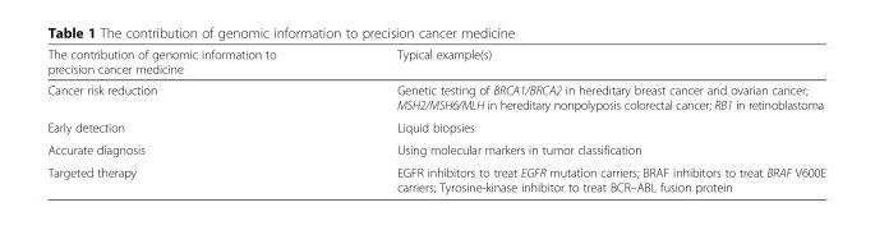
<table><thead><tr><td>The contribution of genomic information to precision cancer medicine</td><td>Typical example(s)</td></tr></thead><tbody><tr><td>Cancer risk reduction</td><td>Genetic testing of BRCA1/BRCA2 in hereditary breast cancer and ovarian cancer; MSH2/MSH6/MLH in hereditary nonpolyposis colorectal cancer; RB1 in retinoblastoma</td></tr><tr><td>Early detection</td><td>Liquid biopsies</td></tr><tr><td>Accurate diagnosis</td><td>Using molecular markers in tumor classification</td></tr><tr><td>Targeted therapy</td><td>EGFR inhibitors to treat EGFR mutation carriers; BRAF inhibitors to treat BRAF V600E carriers; Tyrosine-kinase inhibitor to treat BCR–ABL fusion protein</td></tr></tbody></table>